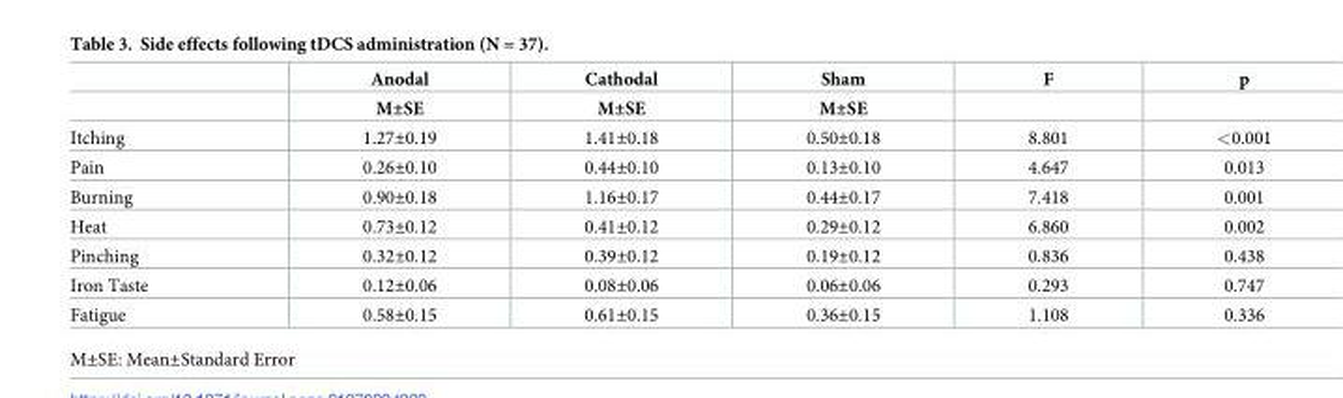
<table><thead><tr><td rowspan="2"></td><td rowspan="2">Anodal M±SE</td><td rowspan="2">Cathodal M±SE</td><td rowspan="2">Sham M±SE</td><td rowspan="2">F</td><td rowspan="2">p</td></tr><tr></tr></thead><tbody><tr><td>Itching</td><td>1.27±0.19</td><td>1.41±0.18</td><td>0.50±0.18</td><td>8.801</td><td>&lt;0.001</td></tr><tr><td>Pain</td><td>0.26±0.10</td><td>0.44±0.10</td><td>0.13±0.10</td><td>4.647</td><td>0.013</td></tr><tr><td>Burning</td><td>0.90±0.18</td><td>1.16±0.17</td><td>0.44±0.17</td><td>7.418</td><td>0.001</td></tr><tr><td>Heat</td><td>0.73±0.12</td><td>0.41±0.12</td><td>0.29±0.12</td><td>6.860</td><td>0.002</td></tr><tr><td>Pinching</td><td>0.32±0.12</td><td>0.39±0.12</td><td>0.19±0.12</td><td>0.836</td><td>0.438</td></tr><tr><td>Iron Taste</td><td>0.12±0.06</td><td>0.08±0.06</td><td>0.06±0.06</td><td>0.293</td><td>0.747</td></tr><tr><td>Fatigue</td><td>0.58±0.15</td><td>0.61±0.15</td><td>0.36±0.15</td><td>1.108</td><td>0.336</td></tr></tbody></table>